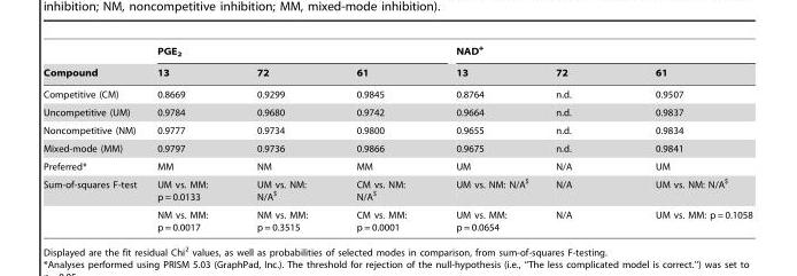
<table><thead><tr><td rowspan="2">Compound</td><td colspan="3">PGE<sub>2</sub></td><td colspan="3">NAD<sup>+</sup></td></tr><tr><td>13</td><td>72</td><td>61</td><td>13</td><td>72</td><td>61</td></tr></thead><tbody><tr><td>Competitive (CM)</td><td>0.8669</td><td>0.9299</td><td>0.9845</td><td>0.8764</td><td>n.d.</td><td>0.9507</td></tr><tr><td>Uncompetitive (UM)</td><td>0.9784</td><td>0.9680</td><td>0.9742</td><td>0.9664</td><td>n.d.</td><td>0.9837</td></tr><tr><td>Noncompetitive (NM)</td><td>0.9777</td><td>0.9734</td><td>0.9800</td><td>0.9655</td><td>n.d.</td><td>0.9834</td></tr><tr><td>Mixed-mode (MM)</td><td>0.9797</td><td>0.9736</td><td>0.9866</td><td>0.9675</td><td>n.d.</td><td>0.9841</td></tr><tr><td>Preferred*</td><td>MM</td><td>NM</td><td>MM</td><td>UM</td><td>N/A</td><td>UM</td></tr><tr><td rowspan="2">Sum-of-squares F-test</td><td>UM vs. MM: p = 0.0133</td><td>UM vs. NM: N/A$</td><td>CM vs. NM: N/A$</td><td>UM vs. NM: N/A$</td><td>N/A</td><td>UM vs. NM: N/A$</td></tr><tr><td>NM vs. MM: p = 0.0017</td><td>NM vs. MM: p = 0.3515</td><td>CM vs. MM: p = 0.0001</td><td>UM vs. MM: p = 0.0654</td><td>N/A</td><td>UM vs. MM: p = 0.1058</td></tr></tbody></table>